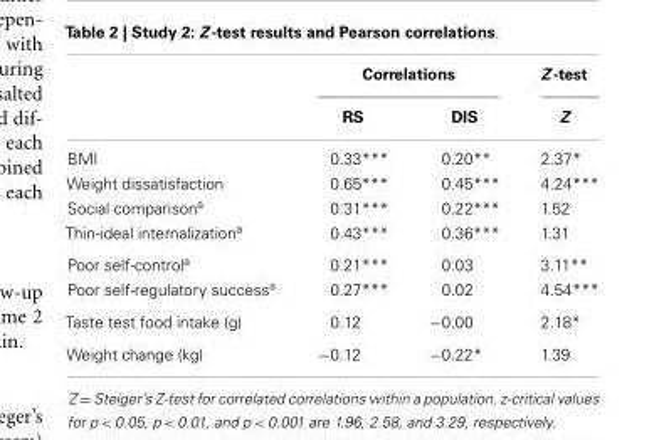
<table><thead><tr><td rowspan="2"></td><td colspan="2">Correlations</td><td rowspan="2">Z-test Z</td></tr><tr><td>RS</td><td>DIS</td></tr></thead><tbody><tr><td>BMI</td><td>0.33***</td><td>0.20**</td><td>2.37*</td></tr><tr><td>Weight dissatisfaction</td><td>0.65***</td><td>0.45***</td><td>4.24***</td></tr><tr><td>Social comparison<sup>a</sup></td><td>0.31***</td><td>0.22***</td><td>1.52</td></tr><tr><td>Thin-ideal internalization<sup>a</sup></td><td>0.43***</td><td>0.36***</td><td>1.31</td></tr><tr><td>Poor self-control<sup>a</sup></td><td>0.21***</td><td>0.03</td><td>3.11**</td></tr><tr><td>Poor self-regulatory success<sup>a</sup></td><td>0.27***</td><td>0.02</td><td>4.54***</td></tr><tr><td>Taste test food intake (g)</td><td>0.12</td><td>−0.00</td><td>2.18*</td></tr><tr><td>Weight change (kg)</td><td>−0.12</td><td>−0.22*</td><td>1.39</td></tr></tbody></table>